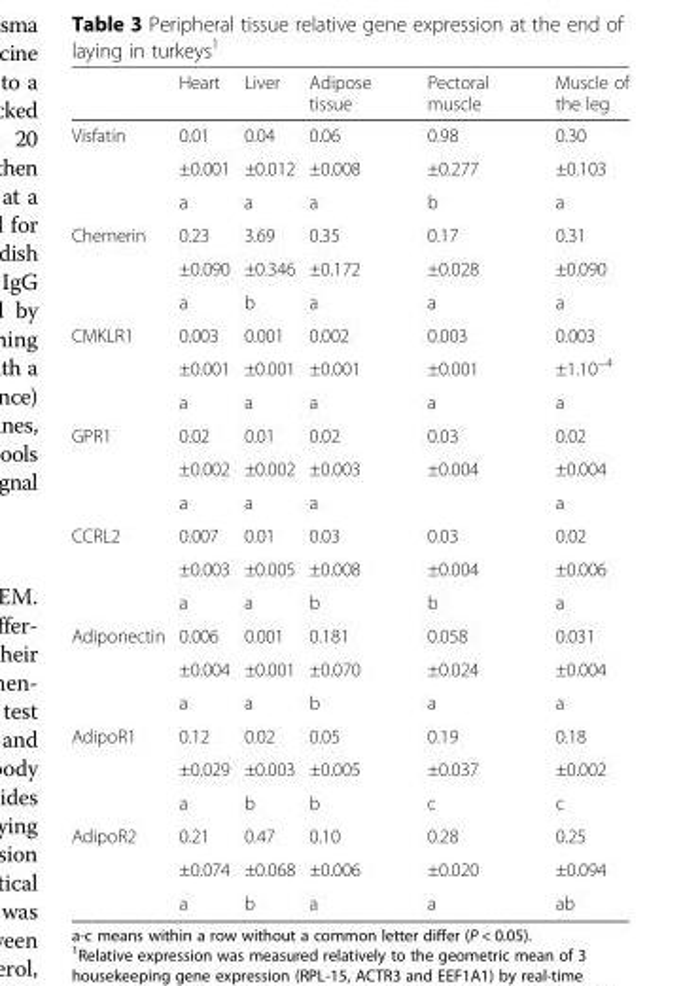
<table><thead><tr><td></td><td>Heart</td><td>Liver</td><td>Adipose tissue</td><td>Pectoral muscle</td><td>Muscle of the leg</td></tr></thead><tbody><tr><td rowspan="3">Visfatin</td><td>0.01</td><td>0.04</td><td>0.06</td><td>0.98</td><td>0.30</td></tr><tr><td>±0.001</td><td>±0.012</td><td>±0.008</td><td>±0.277</td><td>±0.103</td></tr><tr><td>a</td><td>a</td><td>a</td><td>b</td><td>a</td></tr><tr><td rowspan="3">Chemerin</td><td>0.23</td><td>3.69</td><td>0.35</td><td>0.17</td><td>0.31</td></tr><tr><td>±0.090</td><td>±0.346</td><td>±0.172</td><td>±0.028</td><td>±0.090</td></tr><tr><td>a</td><td>b</td><td>a</td><td>a</td><td>a</td></tr><tr><td rowspan="3">CMKLR1</td><td>0.003</td><td>0.001</td><td>0.002</td><td>0.003</td><td>0.003</td></tr><tr><td>±0.001</td><td>±0.001</td><td>±0.001</td><td>±0.001</td><td>±1.10<sup>−4</sup></td></tr><tr><td>a</td><td>a</td><td>a</td><td>a</td><td>a</td></tr><tr><td rowspan="3">GPR1</td><td>0.02</td><td>0.01</td><td>0.02</td><td>0.03</td><td>0.02</td></tr><tr><td>±0.002</td><td>±0.002</td><td>±0.003</td><td>±0.004</td><td>±0.004</td></tr><tr><td>a</td><td>a</td><td>a</td><td></td><td>a</td></tr><tr><td rowspan="3">CCRL2</td><td>0.007</td><td>0.01</td><td>0.03</td><td>0.03</td><td>0.02</td></tr><tr><td>±0.003</td><td>±0.005</td><td>±0.008</td><td>±0.004</td><td>±0.006</td></tr><tr><td>a</td><td>a</td><td>b</td><td>b</td><td>a</td></tr><tr><td rowspan="3">Adiponectin</td><td>0.006</td><td>0.001</td><td>0.181</td><td>0.058</td><td>0.031</td></tr><tr><td>±0.004</td><td>±0.001</td><td>±0.070</td><td>±0.024</td><td>±0.004</td></tr><tr><td>a</td><td>a</td><td>b</td><td>a</td><td>a</td></tr><tr><td rowspan="3">AdipoR1</td><td>0.12</td><td>0.02</td><td>0.05</td><td>0.19</td><td>0.18</td></tr><tr><td>±0.029</td><td>±0.003</td><td>±0.005</td><td>±0.037</td><td>±0.002</td></tr><tr><td>a</td><td>b</td><td>b</td><td>c</td><td>c</td></tr><tr><td rowspan="3">AdipoR2</td><td>0.21</td><td>0.47</td><td>0.10</td><td>0.28</td><td>0.25</td></tr><tr><td>±0.074</td><td>±0.068</td><td>±0.006</td><td>±0.020</td><td>±0.094</td></tr><tr><td>a</td><td>b</td><td>a</td><td>a</td><td>ab</td></tr></tbody></table>